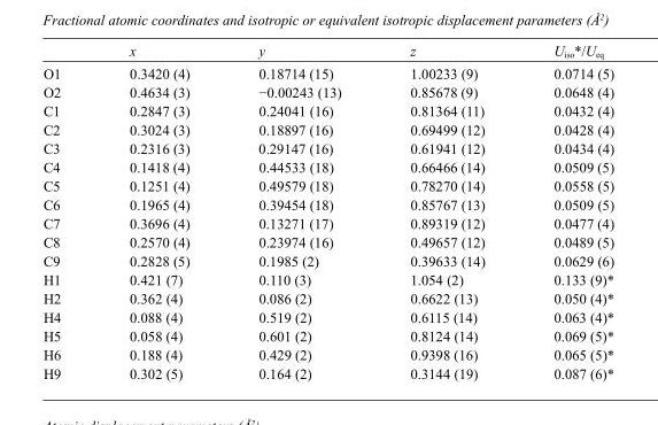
<table><thead><tr><td></td><td>x</td><td>y</td><td>z</td><td>U<sub>iso</sub>*/U<sub>eq</sub></td></tr></thead><tbody><tr><td>O1</td><td>0.3420 (4)</td><td>0.18714 (15)</td><td>1.00233 (9)</td><td>0.0714 (5)</td></tr><tr><td>O2</td><td>0.4634 (3)</td><td>−0.00243 (13)</td><td>0.85678 (9)</td><td>0.0648 (4)</td></tr><tr><td>C1</td><td>0.2847 (3)</td><td>0.24041 (16)</td><td>0.81364 (11)</td><td>0.0432 (4)</td></tr><tr><td>C2</td><td>0.3024 (3)</td><td>0.18897 (16)</td><td>0.69499 (12)</td><td>0.0428 (4)</td></tr><tr><td>C3</td><td>0.2316 (3)</td><td>0.29147 (16)</td><td>0.61941 (12)</td><td>0.0434 (4)</td></tr><tr><td>C4</td><td>0.1418 (4)</td><td>0.44533 (18)</td><td>0.66466 (14)</td><td>0.0509 (5)</td></tr><tr><td>C5</td><td>0.1251 (4)</td><td>0.49579 (18)</td><td>0.78270 (14)</td><td>0.0558 (5)</td></tr><tr><td>C6</td><td>0.1965 (4)</td><td>0.39454 (18)</td><td>0.85767 (13)</td><td>0.0509 (5)</td></tr><tr><td>C7</td><td>0.3696 (4)</td><td>0.13271 (17)</td><td>0.89319 (12)</td><td>0.0477 (4)</td></tr><tr><td>C8</td><td>0.2570 (4)</td><td>0.23974 (16)</td><td>0.49657 (12)</td><td>0.0489 (5)</td></tr><tr><td>C9</td><td>0.2828 (5)</td><td>0.1985 (2)</td><td>0.39633 (14)</td><td>0.0629 (6)</td></tr><tr><td>H1</td><td>0.421 (7)</td><td>0.110 (3)</td><td>1.054 (2)</td><td>0.133 (9)*</td></tr><tr><td>H2</td><td>0.362 (4)</td><td>0.086 (2)</td><td>0.6622 (13)</td><td>0.050 (4)*</td></tr><tr><td>H4</td><td>0.088 (4)</td><td>0.519 (2)</td><td>0.6115 (14)</td><td>0.063 (4)*</td></tr><tr><td>H5</td><td>0.058 (4)</td><td>0.601 (2)</td><td>0.8124 (14)</td><td>0.069 (5)*</td></tr><tr><td>H6</td><td>0.188 (4)</td><td>0.429 (2)</td><td>0.9398 (16)</td><td>0.065 (5)*</td></tr><tr><td>H9</td><td>0.302 (5)</td><td>0.164 (2)</td><td>0.3144 (19)</td><td>0.087 (6)*</td></tr></tbody></table>